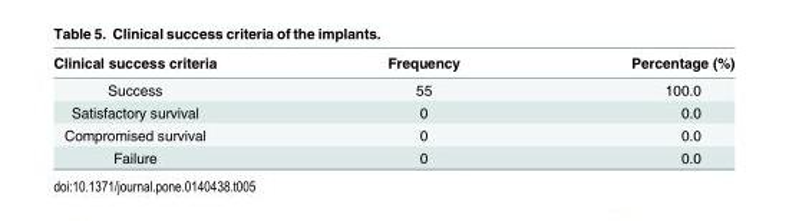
<table><thead><tr><td>Clinical success criteria</td><td>Frequency</td><td>Percentage (%)</td></tr></thead><tbody><tr><td>Success</td><td>55</td><td>100.0</td></tr><tr><td>Satisfactory survival</td><td>0</td><td>0.0</td></tr><tr><td>Compromised survival</td><td>0</td><td>0.0</td></tr><tr><td>Failure</td><td>0</td><td>0.0</td></tr></tbody></table>